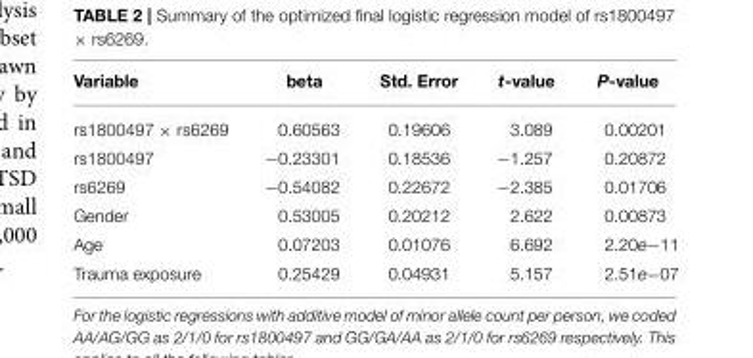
<table><thead><tr><td>Variable</td><td>beta</td><td>Std. Error</td><td>t-value</td><td>P-value</td></tr></thead><tbody><tr><td>rs1800497 × rs6269</td><td>0.60563</td><td>0.19606</td><td>3.089</td><td>0.00201</td></tr><tr><td>rs1800497</td><td>−0.23301</td><td>0.18536</td><td>−1.257</td><td>0.20872</td></tr><tr><td>rs6269</td><td>−0.54082</td><td>0.22672</td><td>−2.385</td><td>0.01706</td></tr><tr><td>Gender</td><td>0.53005</td><td>0.20212</td><td>2.622</td><td>0.00873</td></tr><tr><td>Age</td><td>0.07203</td><td>0.01076</td><td>6.692</td><td>2.20e−11</td></tr><tr><td>Trauma exposure</td><td>0.25429</td><td>0.04931</td><td>5.157</td><td>2.51e−07</td></tr></tbody></table>